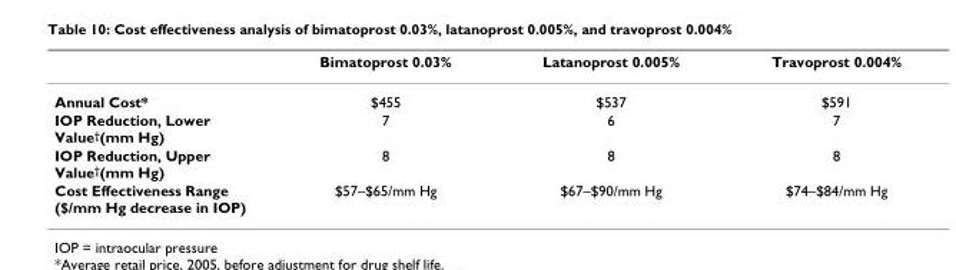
<table><thead><tr><td></td><td>Bimatoprost 0.03%</td><td>Latanoprost 0.005%</td><td>Travoprost 0.004%</td></tr></thead><tbody><tr><td>Annual Cost*</td><td>$455</td><td>$537</td><td>$591</td></tr><tr><td>IOP Reduction, Lower Value<sup>†</sup>(mm Hg)</td><td>7</td><td>6</td><td>7</td></tr><tr><td>IOP Reduction, Upper Value<sup>†</sup>(mm Hg)</td><td>8</td><td>8</td><td>8</td></tr><tr><td>Cost Effectiveness Range ($/mm Hg decrease in IOP)</td><td>$57–$65/mm Hg</td><td>$67–$90/mm Hg</td><td>$74–$84/mm Hg</td></tr></tbody></table>